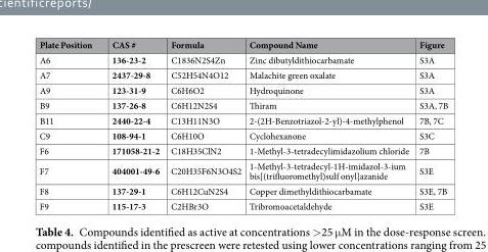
<table><thead><tr><td>Plate Position</td><td>CAS #</td><td>Formula</td><td>Compound Name</td><td>Figure</td></tr></thead><tbody><tr><td>A6</td><td>136-23-2</td><td>C1836N2S4Zn</td><td>Zinc dibutyldithiocarbamate</td><td>S3A</td></tr><tr><td>A7</td><td>2437-29-8</td><td>C52H54N4O12</td><td>Malachite green oxalate</td><td>S3A</td></tr><tr><td>A9</td><td>123-31-9</td><td>C6H6O2</td><td>Hydroquinone</td><td>S3A</td></tr><tr><td>B9</td><td>137-26-8</td><td>C6H12N2S4</td><td>Thiram</td><td>S3A, 7B</td></tr><tr><td>B11</td><td>2440-22-4</td><td>C13H11N3O</td><td>2-(2H-Benzotriazol-2-yl)-4-methylphenol</td><td>7B, 7C</td></tr><tr><td>C9</td><td>108-94-1</td><td>C6H10O</td><td>Cyclohexanone</td><td>S3C</td></tr><tr><td>F6</td><td>171058-21-2</td><td>C18H35ClN2</td><td>1-Methyl-3-tetradecylimidazolium chloride</td><td>7B</td></tr><tr><td>F7</td><td>404001-49-6</td><td>C20H35F6N3O4S2</td><td>1-Methyl-3-tetradecyl-1H-imidazol-3-ium bis[(trifluoromethyl)sulf onyl]azanide</td><td>S3E</td></tr><tr><td>F8</td><td>137-29-1</td><td>C6H12CuN2S4</td><td>Copper dimethyldithiocarbamate</td><td>S3E, 7B</td></tr><tr><td>F9</td><td>115-17-3</td><td>C2HBr3O</td><td>Tribromoacetaldehyde</td><td>S3E</td></tr></tbody></table>